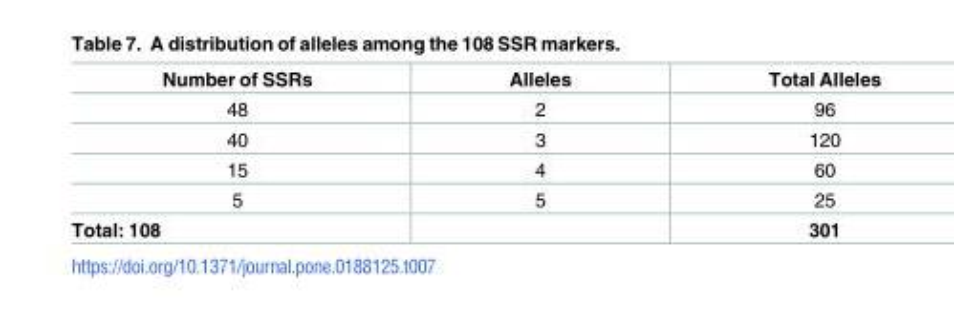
<table><thead><tr><td>Number of SSRs</td><td>Alleles</td><td>Total Alleles</td></tr></thead><tbody><tr><td>48</td><td>2</td><td>96</td></tr><tr><td>40</td><td>3</td><td>120</td></tr><tr><td>15</td><td>4</td><td>60</td></tr><tr><td>5</td><td>5</td><td>25</td></tr><tr><td>Total: 108</td><td></td><td>301</td></tr></tbody></table>